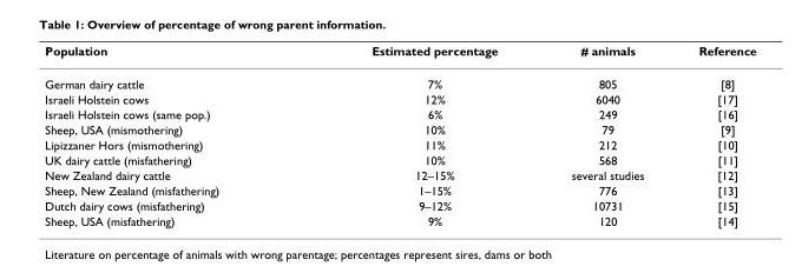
<table><thead><tr><td>Population</td><td>Estimated percentage</td><td># animals</td><td>Reference</td></tr></thead><tbody><tr><td>German dairy cattle</td><td>7%</td><td>805</td><td>[8]</td></tr><tr><td>Israeli Holstein cows</td><td>12%</td><td>6040</td><td>[17]</td></tr><tr><td>Israeli Holstein cows (same pop.)</td><td>6%</td><td>249</td><td>[16]</td></tr><tr><td>Sheep, USA (mismothering)</td><td>10%</td><td>79</td><td>[9]</td></tr><tr><td>Lipizzaner Hors (mismothering)</td><td>11%</td><td>212</td><td>[10]</td></tr><tr><td>UK dairy cattle (misfathering)</td><td>10%</td><td>568</td><td>[11]</td></tr><tr><td>New Zealand dairy cattle</td><td>12–15%</td><td>several studies</td><td>[12]</td></tr><tr><td>Sheep, New Zealand (misfathering)</td><td>1–15%</td><td>776</td><td>[13]</td></tr><tr><td>Dutch dairy cows (misfathering)</td><td>9–12%</td><td>10731</td><td>[15]</td></tr><tr><td>Sheep, USA (misfathering)</td><td>9%</td><td>120</td><td>[14]</td></tr></tbody></table>